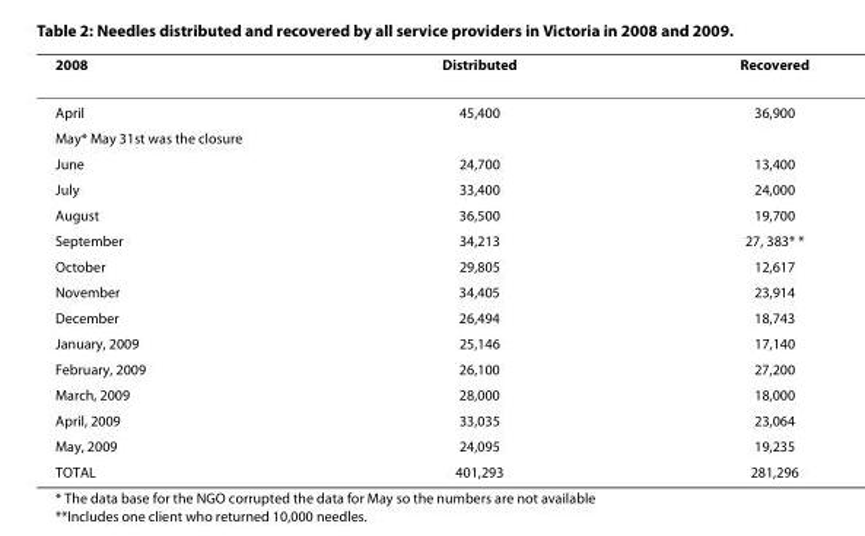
<table><thead><tr><td>2008</td><td>Distributed</td><td>Recovered</td></tr></thead><tbody><tr><td>April</td><td>45,400</td><td>36,900</td></tr><tr><td colspan="3">May* May 31st was the closure</td></tr><tr><td>June</td><td>24,700</td><td>13,400</td></tr><tr><td>July</td><td>33,400</td><td>24,000</td></tr><tr><td>August</td><td>36,500</td><td>19,700</td></tr><tr><td>September</td><td>34,213</td><td>27, 383* *</td></tr><tr><td>October</td><td>29,805</td><td>12,617</td></tr><tr><td>November</td><td>34,405</td><td>23,914</td></tr><tr><td>December</td><td>26,494</td><td>18,743</td></tr><tr><td>January, 2009</td><td>25,146</td><td>17,140</td></tr><tr><td>February, 2009</td><td>26,100</td><td>27,200</td></tr><tr><td>March, 2009</td><td>28,000</td><td>18,000</td></tr><tr><td>April, 2009</td><td>33,035</td><td>23,064</td></tr><tr><td>May, 2009</td><td>24,095</td><td>19,235</td></tr><tr><td>TOTAL</td><td>401,293</td><td>281,296</td></tr></tbody></table>